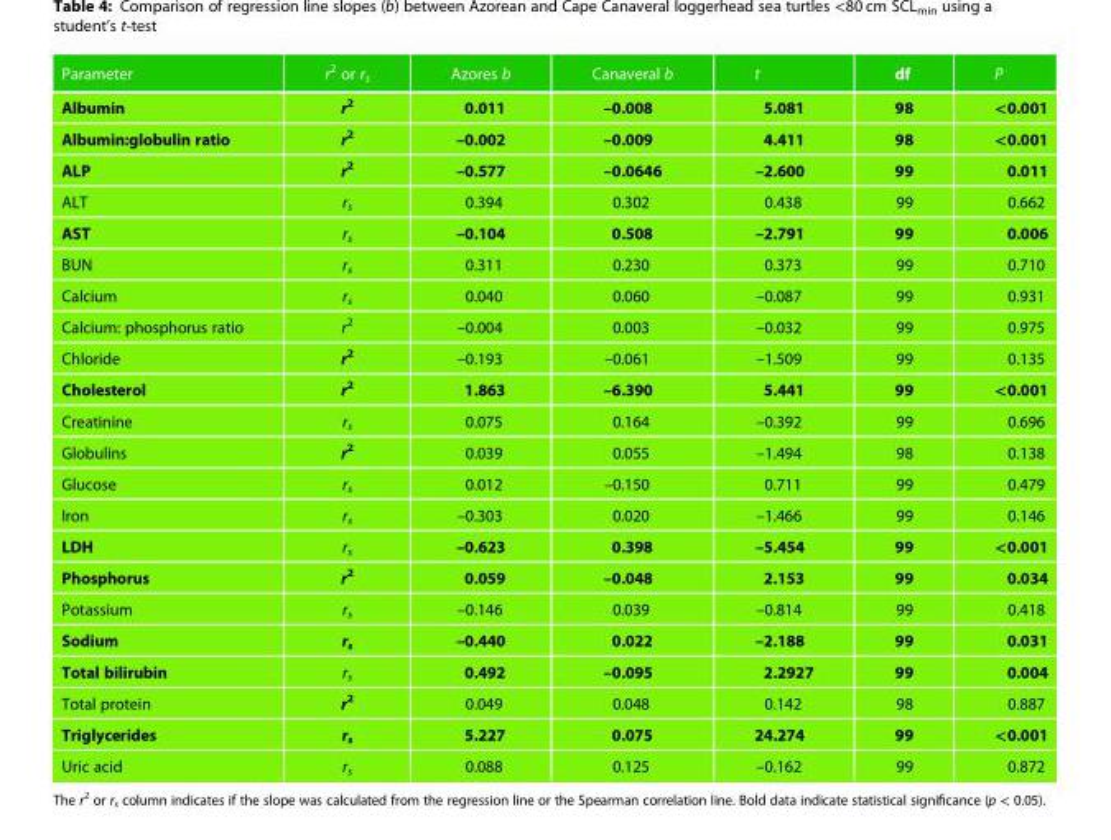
<table><thead><tr><td>Parameter</td><td>r<sup>2</sup> or r<sub>s</sub></td><td>Azores b</td><td>Canaveral b</td><td>t</td><td>df</td><td>P</td></tr></thead><tbody><tr><td>Albumin</td><td>r<sup>2</sup></td><td>0.011</td><td>–0.008</td><td>5.081</td><td>98</td><td>&lt;0.001</td></tr><tr><td>Albumin:globulin ratio</td><td>r<sup>2</sup></td><td>–0.002</td><td>–0.009</td><td>4.411</td><td>98</td><td>&lt;0.001</td></tr><tr><td>ALP</td><td>r<sup>2</sup></td><td>–0.577</td><td>–0.0646</td><td>–2.600</td><td>99</td><td>0.011</td></tr><tr><td>ALT</td><td>r<sub>s</sub></td><td>0.394</td><td>0.302</td><td>0.438</td><td>99</td><td>0.662</td></tr><tr><td>AST</td><td>r<sub>s</sub></td><td>–0.104</td><td>0.508</td><td>–2.791</td><td>99</td><td>0.006</td></tr><tr><td>BUN</td><td>r<sub>s</sub></td><td>0.311</td><td>0.230</td><td>0.373</td><td>99</td><td>0.710</td></tr><tr><td>Calcium</td><td>r<sub>s</sub></td><td>0.040</td><td>0.060</td><td>–0.087</td><td>99</td><td>0.931</td></tr><tr><td>Calcium: phosphorus ratio</td><td>r<sup>2</sup></td><td>–0.004</td><td>0.003</td><td>–0.032</td><td>99</td><td>0.975</td></tr><tr><td>Chloride</td><td>r<sup>2</sup></td><td>–0.193</td><td>–0.061</td><td>–1.509</td><td>99</td><td>0.135</td></tr><tr><td>Cholesterol</td><td>r<sup>2</sup></td><td>1.863</td><td>–6.390</td><td>5.441</td><td>99</td><td>&lt;0.001</td></tr><tr><td>Creatinine</td><td>r<sub>s</sub></td><td>0.075</td><td>0.164</td><td>–0.392</td><td>99</td><td>0.696</td></tr><tr><td>Globulins</td><td>r<sup>2</sup></td><td>0.039</td><td>0.055</td><td>–1.494</td><td>98</td><td>0.138</td></tr><tr><td>Glucose</td><td>r<sub>s</sub></td><td>0.012</td><td>–0.150</td><td>0.711</td><td>99</td><td>0.479</td></tr><tr><td>Iron</td><td>r<sub>s</sub></td><td>–0.303</td><td>0.020</td><td>–1.466</td><td>99</td><td>0.146</td></tr><tr><td>LDH</td><td>r<sub>s</sub></td><td>–0.623</td><td>0.398</td><td>–5.454</td><td>99</td><td>&lt;0.001</td></tr><tr><td>Phosphorus</td><td>r<sup>2</sup></td><td>0.059</td><td>–0.048</td><td>2.153</td><td>99</td><td>0.034</td></tr><tr><td>Potassium</td><td>r<sub>s</sub></td><td>–0.146</td><td>0.039</td><td>–0.814</td><td>99</td><td>0.418</td></tr><tr><td>Sodium</td><td>r<sub>s</sub></td><td>–0.440</td><td>0.022</td><td>–2.188</td><td>99</td><td>0.031</td></tr><tr><td>Total bilirubin</td><td>r<sub>s</sub></td><td>0.492</td><td>–0.095</td><td>2.2927</td><td>99</td><td>0.004</td></tr><tr><td>Total protein</td><td>r<sup>2</sup></td><td>0.049</td><td>0.048</td><td>0.142</td><td>98</td><td>0.887</td></tr><tr><td>Triglycerides</td><td>r<sub>s</sub></td><td>5.227</td><td>0.075</td><td>24.274</td><td>99</td><td>&lt;0.001</td></tr><tr><td>Uric acid</td><td>r<sub>s</sub></td><td>0.088</td><td>0.125</td><td>–0.162</td><td>99</td><td>0.872</td></tr></tbody></table>